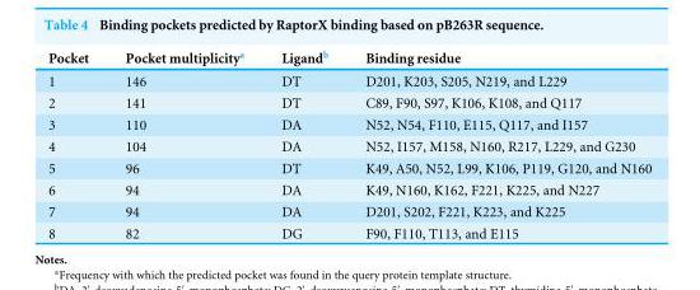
<table><thead><tr><td>Pocket</td><td>Pocket multiplicity<sup>a</sup></td><td>Ligand<sup>b</sup></td><td>Binding residue</td></tr></thead><tbody><tr><td>1</td><td>146</td><td>DT</td><td>D201, K203, S205, N219, and L229</td></tr><tr><td>2</td><td>141</td><td>DT</td><td>C89, F90, S97, K106, K108, and Q117</td></tr><tr><td>3</td><td>110</td><td>DA</td><td>N52, N54, F110, E115, Q117, and I157</td></tr><tr><td>4</td><td>104</td><td>DA</td><td>N52, I157, M158, N160, R217, L229, and G230</td></tr><tr><td>5</td><td>96</td><td>DT</td><td>K49, A50, N52, L99, K106, P119, G120, and N160</td></tr><tr><td>6</td><td>94</td><td>DA</td><td>K49, N160, K162, F221, K225, and N227</td></tr><tr><td>7</td><td>94</td><td>DA</td><td>D201, S202, F221, K223, and K225</td></tr><tr><td>8</td><td>82</td><td>DG</td><td>F90, F110, T113, and E115</td></tr></tbody></table>